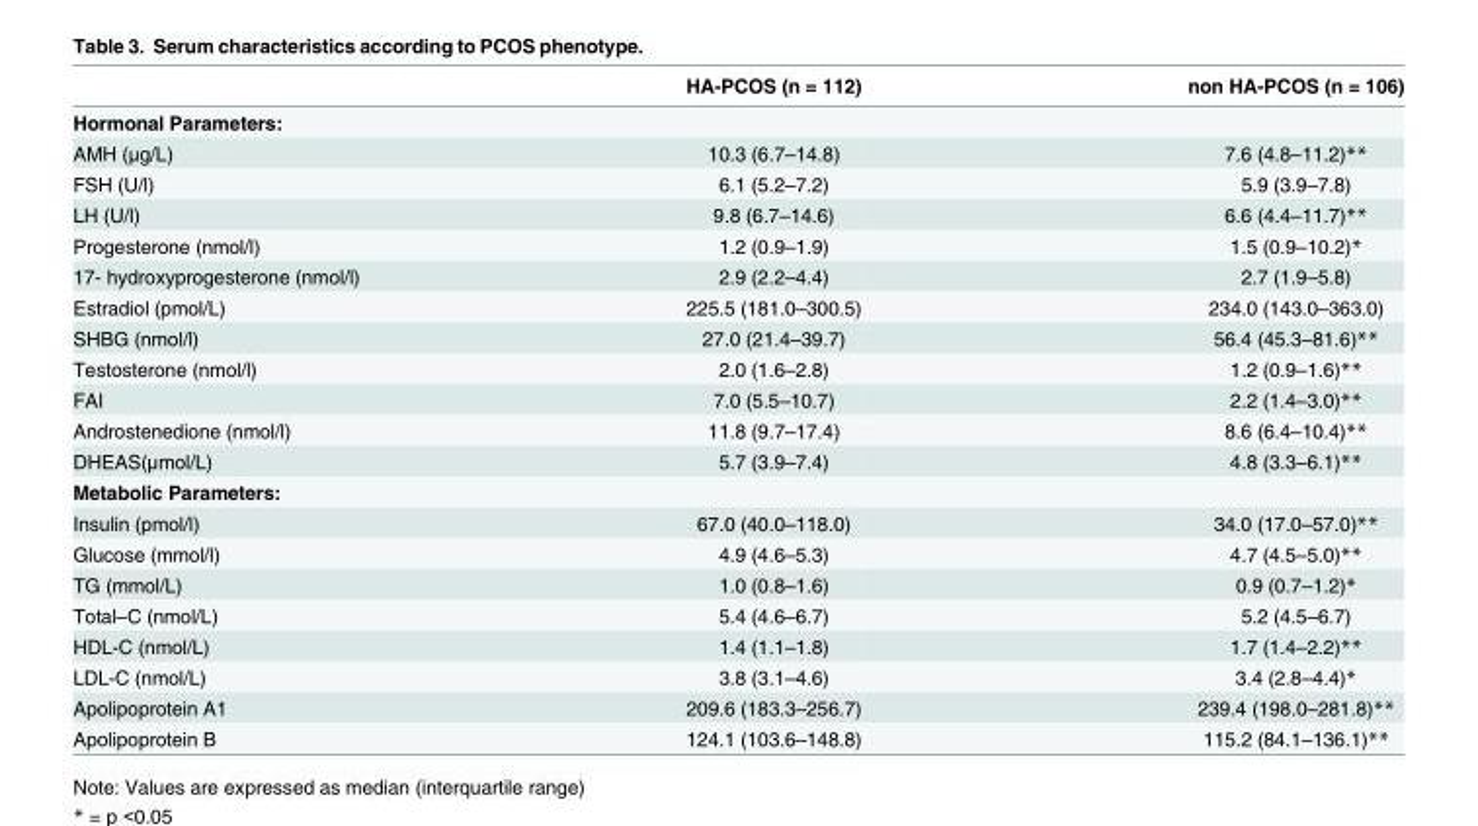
<table><thead><tr><td></td><td>HA-PCOS (n = 112)</td><td>non HA-PCOS (n = 106)</td></tr></thead><tbody><tr><td colspan="3">Hormonal Parameters:</td></tr><tr><td>AMH (μg/L)</td><td>10.3 (6.7–14.8)</td><td>7.6 (4.8–11.2)**</td></tr><tr><td>FSH (U/l)</td><td>6.1 (5.2–7.2)</td><td>5.9 (3.9–7.8)</td></tr><tr><td>LH (U/l)</td><td>9.8 (6.7–14.6)</td><td>6.6 (4.4–11.7)**</td></tr><tr><td>Progesterone (nmol/l)</td><td>1.2 (0.9–1.9)</td><td>1.5 (0.9–10.2)*</td></tr><tr><td>17- hydroxyprogesterone (nmol/l)</td><td>2.9 (2.2–4.4)</td><td>2.7 (1.9–5.8)</td></tr><tr><td>Estradiol (pmol/L)</td><td>225.5 (181.0–300.5)</td><td>234.0 (143.0–363.0)</td></tr><tr><td>SHBG (nmol/l)</td><td>27.0 (21.4–39.7)</td><td>56.4 (45.3–81.6)**</td></tr><tr><td>Testosterone (nmol/l)</td><td>2.0 (1.6–2.8)</td><td>1.2 (0.9–1.6)**</td></tr><tr><td>FAI</td><td>7.0 (5.5–10.7)</td><td>2.2 (1.4–3.0)**</td></tr><tr><td>Androstenedione (nmol/l)</td><td>11.8 (9.7–17.4)</td><td>8.6 (6.4–10.4)**</td></tr><tr><td>DHEAS(μmol/L)</td><td>5.7 (3.9–7.4)</td><td>4.8 (3.3–6.1)**</td></tr><tr><td colspan="3">Metabolic Parameters:</td></tr><tr><td>Insulin (pmol/l)</td><td>67.0 (40.0–118.0)</td><td>34.0 (17.0–57.0)**</td></tr><tr><td>Glucose (mmol/l)</td><td>4.9 (4.6–5.3)</td><td>4.7 (4.5–5.0)**</td></tr><tr><td>TG (mmol/L)</td><td>1.0 (0.8–1.6)</td><td>0.9 (0.7–1.2)*</td></tr><tr><td>Total–C (nmol/L)</td><td>5.4 (4.6–6.7)</td><td>5.2 (4.5–6.7)</td></tr><tr><td>HDL-C (nmol/L)</td><td>1.4 (1.1–1.8)</td><td>1.7 (1.4–2.2)**</td></tr><tr><td>LDL-C (nmol/L)</td><td>3.8 (3.1–4.6)</td><td>3.4 (2.8–4.4)*</td></tr><tr><td>Apolipoprotein A1</td><td>209.6 (183.3–256.7)</td><td>239.4 (198.0–281.8)**</td></tr><tr><td>Apolipoprotein B</td><td>124.1 (103.6–148.8)</td><td>115.2 (84.1–136.1)**</td></tr></tbody></table>